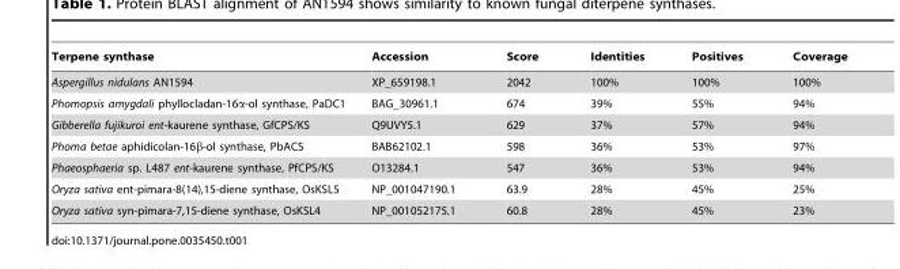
<table><thead><tr><td>Terpene synthase</td><td>Accession</td><td>Score</td><td>Identities</td><td>Positives</td><td>Coverage</td></tr></thead><tbody><tr><td>Aspergillus nidulans AN1594</td><td>XP_659198.1</td><td>2042</td><td>100%</td><td>100%</td><td>100%</td></tr><tr><td>Phomopsis amygdali phyllocladan-16α-ol synthase, PaDC1</td><td>BAG_30961.1</td><td>674</td><td>39%</td><td>55%</td><td>94%</td></tr><tr><td>Gibberella fujikuroi ent-kaurene synthase, GfCPS/KS</td><td>Q9UVY5.1</td><td>629</td><td>37%</td><td>57%</td><td>94%</td></tr><tr><td>Phoma betae aphidicolan-16β-ol synthase, PbACS</td><td>BAB62102.1</td><td>598</td><td>36%</td><td>53%</td><td>97%</td></tr><tr><td>Phaeosphaeria sp. L487 ent-kaurene synthase, PfCPS/KS</td><td>O13284.1</td><td>547</td><td>36%</td><td>53%</td><td>94%</td></tr><tr><td>Oryza sativa ent-pimara-8(14),15-diene synthase, OsKSL5</td><td>NP_001047190.1</td><td>63.9</td><td>28%</td><td>45%</td><td>25%</td></tr><tr><td>Oryza sativa syn-pimara-7,15-diene synthase, OsKSL4</td><td>NP_001052175.1</td><td>60.8</td><td>28%</td><td>45%</td><td>23%</td></tr></tbody></table>